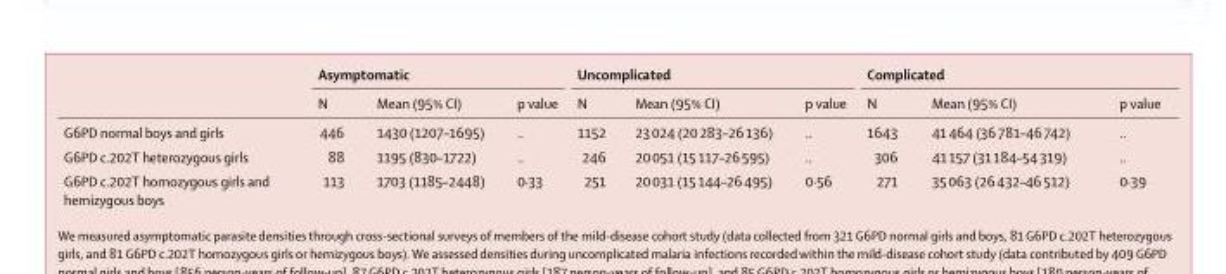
<table><thead><tr><td rowspan="2"></td><td colspan="3">Asymptomatic</td><td colspan="3">Uncomplicated</td><td colspan="3">Complicated</td></tr><tr><td>N</td><td>Mean (95% CI)</td><td>p value</td><td>N</td><td>Mean (95% CI)</td><td>p value</td><td>N</td><td>Mean (95% CI)</td><td>p value</td></tr></thead><tbody><tr><td>G6PD normal boys and girls</td><td>446</td><td>1430 (1207–1695)</td><td>..</td><td>1152</td><td>23 024 (20 283–26 136)</td><td>..</td><td>1643</td><td>41 464 (36 781–46 742)</td><td>..</td></tr><tr><td>G6PD c.202T heterozygous girls</td><td>88</td><td>1195 (830–1722)</td><td>..</td><td>246</td><td>20 051 (15 117–26 595)</td><td>..</td><td>306</td><td>41 157 (31 184–54 319)</td><td>..</td></tr><tr><td>G6PD c.202T homozygous girls and hemizygous boys</td><td>113</td><td>1703 (1185–2448)</td><td>0·33</td><td>251</td><td>20 031 (15 144–26 495)</td><td>0·56</td><td>271</td><td>35 063 (26 432–46 512)</td><td>0·39</td></tr></tbody></table>